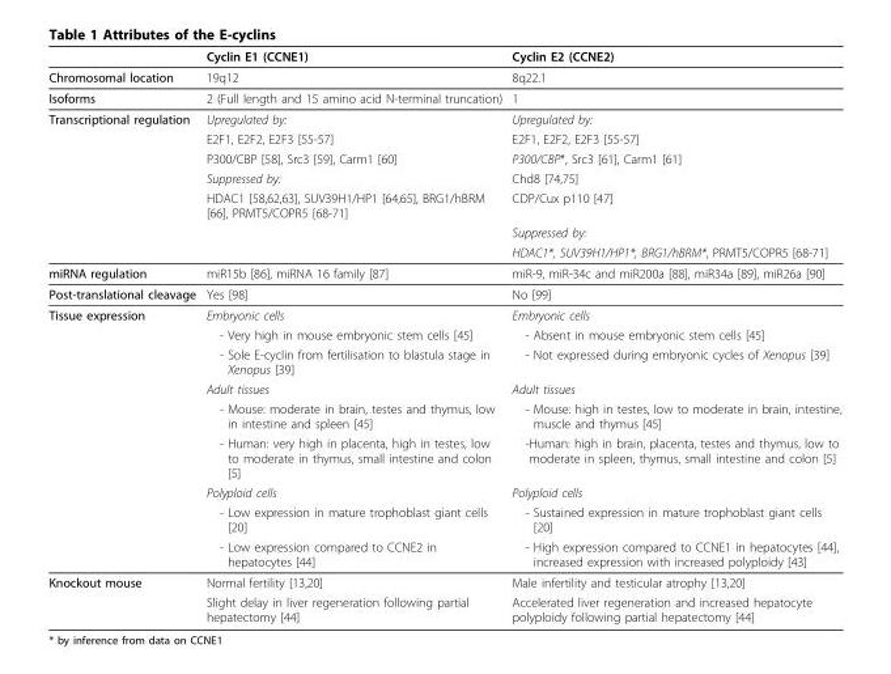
<table><thead><tr><td></td><td>Cyclin E1 (CCNE1)</td><td>Cyclin E2 (CCNE2)</td></tr></thead><tbody><tr><td>Chromosomal location</td><td>19q12</td><td>8q22.1</td></tr><tr><td>Isoforms</td><td>2 (Full length and 15 amino acid N-terminal truncation)</td><td>1</td></tr><tr><td rowspan="7">Transcriptional regulation</td><td>Upregulated by:</td><td>Upregulated by:</td></tr><tr><td>E2F1, E2F2, E2F3 [55-57]</td><td>E2F1, E2F2, E2F3 [55-57]</td></tr><tr><td>P300/CBP [58], Src3 [59], Carm1 [60]</td><td>P300/CBP*, Src3 [61], Carm1 [61]</td></tr><tr><td>Suppressed by:</td><td>Chd8 [74,75]</td></tr><tr><td>HDAC1 [58,62,63], SUV39H1/HP1 [64,65], BRG1/hBRM [66], PRMT5/COPR5 [68-71]</td><td>CDP/Cux p110 [47]</td></tr><tr><td></td><td>Suppressed by:</td></tr><tr><td></td><td>HDAC1*, SUV39H1/HP1*, BRG1/hBRM*, PRMT5/COPR5 [68-71]</td></tr><tr><td>miRNA regulation</td><td>miR15b [86], miRNA 16 family [87]</td><td>miR-9, miR-34c and miR200a [88], miR34a [89], miR26a [90]</td></tr><tr><td>Post-translational cleavage</td><td>Yes [98]</td><td>No [99]</td></tr><tr><td rowspan="9">Tissue expression</td><td>Embryonic cells</td><td>Embryonic cells</td></tr><tr><td>- Very high in mouse embryonic stem cells [45]</td><td>- Absent in mouse embryonic stem cells [45]</td></tr><tr><td>- Sole E-cyclin from fertilisation to blastula stage in Xenopus [39]</td><td>- Not expressed during embryonic cycles of Xenopus [39]</td></tr><tr><td>Adult tissues</td><td>Adult tissues</td></tr><tr><td>- Mouse: moderate in brain, testes and thymus, low in intestine and spleen [45]</td><td>- Mouse: high in testes, low to moderate in brain, intestine, muscle and thymus [45]</td></tr><tr><td>- Human: very high in placenta, high in testes, low to moderate in thymus, small intestine and colon [5]</td><td>-Human: high in brain, placenta, testes and thymus, low to moderate in spleen, thymus, small intestine and colon [5]</td></tr><tr><td>Polyploid cells</td><td>Polyploid cells</td></tr><tr><td>- Low expression in mature trophoblast giant cells [20]</td><td>- Sustained expression in mature trophoblast giant cells [20]</td></tr><tr><td>- Low expression compared to CCNE2 in hepatocytes [44]</td><td>- High expression compared to CCNE1 in hepatocytes [44], increased expression with increased polyploidy [43]</td></tr><tr><td rowspan="2">Knockout mouse</td><td>Normal fertility [13,20]</td><td>Male infertility and testicular atrophy [13,20]</td></tr><tr><td>Slight delay in liver regeneration following partial hepatectomy [44]</td><td>Accelerated liver regeneration and increased hepatocyte polyploidy following partial hepatectomy [44]</td></tr></tbody></table>